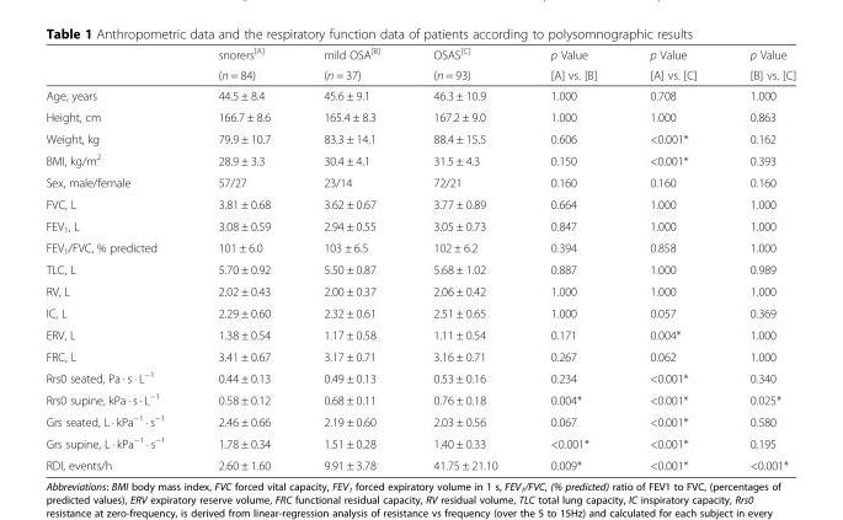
<table><thead><tr><td rowspan="2"></td><td rowspan="2">snorers<sup>[A]</sup> (n = 84)</td><td rowspan="2">mild OSA<sup>[B]</sup> (n = 37)</td><td rowspan="2">OSAS<sup>[C]</sup> (n = 93)</td><td rowspan="2">p Value [A] vs. [B]</td><td rowspan="2">p Value [A] vs. [C]</td><td rowspan="2">p Value [B] vs. [C]</td></tr><tr></tr></thead><tbody><tr><td>Age, years</td><td>44.5 ± 8.4</td><td>45.6 ± 9.1</td><td>46.3 ± 10.9</td><td>1.000</td><td>0.708</td><td>1.000</td></tr><tr><td>Height, cm</td><td>166.7 ± 8.6</td><td>165.4 ± 8.3</td><td>167.2 ± 9.0</td><td>1.000</td><td>1.000</td><td>0.863</td></tr><tr><td>Weight, kg</td><td>79.9 ± 10.7</td><td>83.3 ± 14.1</td><td>88.4 ± 15.5</td><td>0.606</td><td>&lt;0.001*</td><td>0.162</td></tr><tr><td>BMI, kg/m<sup>2</sup></td><td>28.9 ± 3.3</td><td>30.4 ± 4.1</td><td>31.5 ± 4.3</td><td>0.150</td><td>&lt;0.001*</td><td>0.393</td></tr><tr><td>Sex, male/female</td><td>57/27</td><td>23/14</td><td>72/21</td><td>0.160</td><td>0.160</td><td>0.160</td></tr><tr><td>FVC, L</td><td>3.81 ± 0.68</td><td>3.62 ± 0.67</td><td>3.77 ± 0.89</td><td>0.664</td><td>1.000</td><td>1.000</td></tr><tr><td>FEV<sub>1</sub>, L</td><td>3.08 ± 0.59</td><td>2.94 ± 0.55</td><td>3.05 ± 0.73</td><td>0.847</td><td>1.000</td><td>1.000</td></tr><tr><td>FEV<sub>1</sub>/FVC, % predicted</td><td>101 ± 6.0</td><td>103 ± 6.5</td><td>102 ± 6.2</td><td>0.394</td><td>0.858</td><td>1.000</td></tr><tr><td>TLC, L</td><td>5.70 ± 0.92</td><td>5.50 ± 0.87</td><td>5.68 ± 1.02</td><td>0.887</td><td>1.000</td><td>0.989</td></tr><tr><td>RV, L</td><td>2.02 ± 0.43</td><td>2.00 ± 0.37</td><td>2.06 ± 0.42</td><td>1.000</td><td>1.000</td><td>1.000</td></tr><tr><td>IC, L</td><td>2.29 ± 0.60</td><td>2.32 ± 0.61</td><td>2.51 ± 0.65</td><td>1.000</td><td>0.057</td><td>0.369</td></tr><tr><td>ERV, L</td><td>1.38 ± 0.54</td><td>1.17 ± 0.58</td><td>1.11 ± 0.54</td><td>0.171</td><td>0.004*</td><td>1.000</td></tr><tr><td>FRC, L</td><td>3.41 ± 0.67</td><td>3.17 ± 0.71</td><td>3.16 ± 0.71</td><td>0.267</td><td>0.062</td><td>1.000</td></tr><tr><td>Rrs0 seated, Pa · s · L<sup>−1</sup></td><td>0.44 ± 0.13</td><td>0.49 ± 0.13</td><td>0.53 ± 0.16</td><td>0.234</td><td>&lt;0.001*</td><td>0.340</td></tr><tr><td>Rrs0 supine, kPa · s · L<sup>−1</sup></td><td>0.58 ± 0.12</td><td>0.68 ± 0.11</td><td>0.76 ± 0.18</td><td>0.004*</td><td>&lt;0.001*</td><td>0.025*</td></tr><tr><td>Grs seated, L · kPa<sup>−1</sup> · s<sup>−1</sup></td><td>2.46 ± 0.66</td><td>2.19 ± 0.60</td><td>2.03 ± 0.56</td><td>0.067</td><td>&lt;0.001*</td><td>0.580</td></tr><tr><td>Grs supine, L · kPa<sup>−1</sup> · s<sup>−1</sup></td><td>1.78 ± 0.34</td><td>1.51 ± 0.28</td><td>1.40 ± 0.33</td><td>&lt;0.001*</td><td>&lt;0.001*</td><td>0.195</td></tr><tr><td>RDI, events/h</td><td>2.60 ± 1.60</td><td>9.91 ± 3.78</td><td>41.75 ± 21.10</td><td>0.009*</td><td>&lt;0.001*</td><td>&lt;0.001*</td></tr></tbody></table>